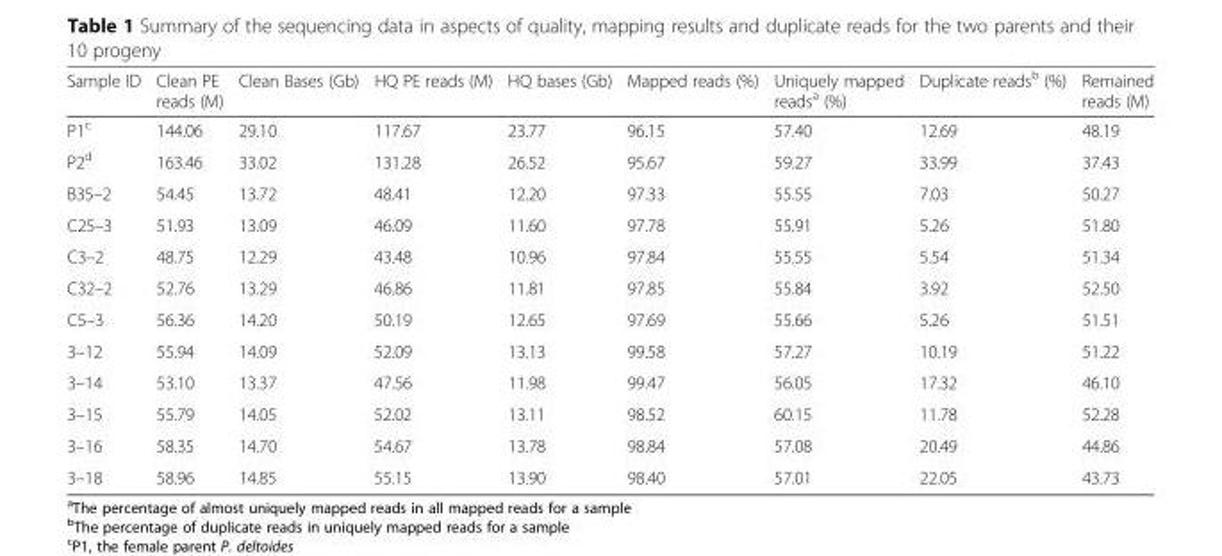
<table><thead><tr><td>Sample ID</td><td>Clean PE reads (M)</td><td>Clean Bases (Gb)</td><td>HQ PE reads (M)</td><td>HQ bases (Gb)</td><td>Mapped reads (%)</td><td>Uniquely mapped reads<sup>a</sup> (%)</td><td>Duplicate reads<sup>b</sup> (%)</td><td>Remained reads (M)</td></tr></thead><tbody><tr><td>P1<sup>c</sup></td><td>144.06</td><td>29.10</td><td>117.67</td><td>23.77</td><td>96.15</td><td>57.40</td><td>12.69</td><td>48.19</td></tr><tr><td>P2<sup>d</sup></td><td>163.46</td><td>33.02</td><td>131.28</td><td>26.52</td><td>95.67</td><td>59.27</td><td>33.99</td><td>37.43</td></tr><tr><td>B35–2</td><td>54.45</td><td>13.72</td><td>48.41</td><td>12.20</td><td>97.33</td><td>55.55</td><td>7.03</td><td>50.27</td></tr><tr><td>C25–3</td><td>51.93</td><td>13.09</td><td>46.09</td><td>11.60</td><td>97.78</td><td>55.91</td><td>5.26</td><td>51.80</td></tr><tr><td>C3–2</td><td>48.75</td><td>12.29</td><td>43.48</td><td>10.96</td><td>97.84</td><td>55.55</td><td>5.54</td><td>51.34</td></tr><tr><td>C32–2</td><td>52.76</td><td>13.29</td><td>46.86</td><td>11.81</td><td>97.85</td><td>55.84</td><td>3.92</td><td>52.50</td></tr><tr><td>C5–3</td><td>56.36</td><td>14.20</td><td>50.19</td><td>12.65</td><td>97.69</td><td>55.66</td><td>5.26</td><td>51.51</td></tr><tr><td>3–12</td><td>55.94</td><td>14.09</td><td>52.09</td><td>13.13</td><td>99.58</td><td>57.27</td><td>10.19</td><td>51.22</td></tr><tr><td>3–14</td><td>53.10</td><td>13.37</td><td>47.56</td><td>11.98</td><td>99.47</td><td>56.05</td><td>17.32</td><td>46.10</td></tr><tr><td>3–15</td><td>55.79</td><td>14.05</td><td>52.02</td><td>13.11</td><td>98.52</td><td>60.15</td><td>11.78</td><td>52.28</td></tr><tr><td>3–16</td><td>58.35</td><td>14.70</td><td>54.67</td><td>13.78</td><td>98.84</td><td>57.08</td><td>20.49</td><td>44.86</td></tr><tr><td>3–18</td><td>58.96</td><td>14.85</td><td>55.15</td><td>13.90</td><td>98.40</td><td>57.01</td><td>22.05</td><td>43.73</td></tr></tbody></table>